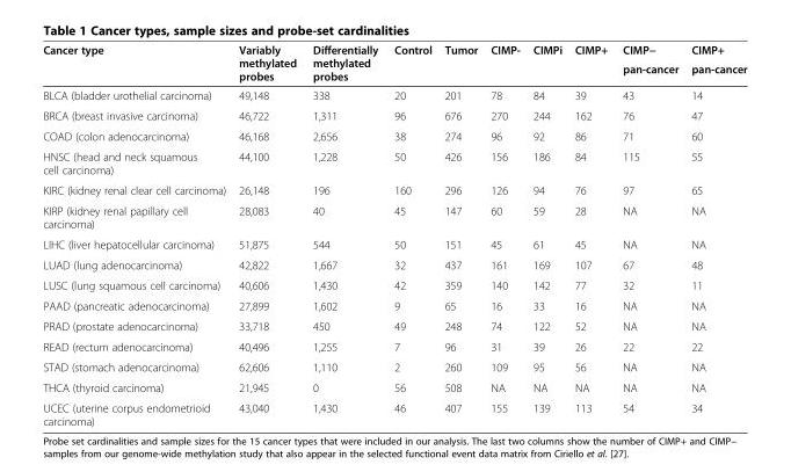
<table><thead><tr><td rowspan="2">Cancer type</td><td rowspan="2">Variably methylated probes</td><td rowspan="2">Differentially methylated probes</td><td rowspan="2">Control</td><td rowspan="2">Tumor</td><td rowspan="2">CIMP-</td><td rowspan="2">CIMPi</td><td rowspan="2">CIMP+</td><td rowspan="2">CIMP− pan-cancer</td><td rowspan="2">CIMP+ pan-cancer</td></tr><tr></tr></thead><tbody><tr><td>BLCA (bladder urothelial carcinoma)</td><td>49,148</td><td>338</td><td>20</td><td>201</td><td>78</td><td>84</td><td>39</td><td>43</td><td>14</td></tr><tr><td>BRCA (breast invasive carcinoma)</td><td>46,722</td><td>1,311</td><td>96</td><td>676</td><td>270</td><td>244</td><td>162</td><td>76</td><td>47</td></tr><tr><td>COAD (colon adenocarcinoma)</td><td>46,168</td><td>2,656</td><td>38</td><td>274</td><td>96</td><td>92</td><td>86</td><td>71</td><td>60</td></tr><tr><td>HNSC (head and neck squamous cell carcinoma)</td><td>44,100</td><td>1,228</td><td>50</td><td>426</td><td>156</td><td>186</td><td>84</td><td>115</td><td>55</td></tr><tr><td>KIRC (kidney renal clear cell carcinoma)</td><td>26,148</td><td>196</td><td>160</td><td>296</td><td>126</td><td>94</td><td>76</td><td>97</td><td>65</td></tr><tr><td>KIRP (kidney renal papillary cell carcinoma)</td><td>28,083</td><td>40</td><td>45</td><td>147</td><td>60</td><td>59</td><td>28</td><td>NA</td><td>NA</td></tr><tr><td>LIHC (liver hepatocellular carcinoma)</td><td>51,875</td><td>544</td><td>50</td><td>151</td><td>45</td><td>61</td><td>45</td><td>NA</td><td>NA</td></tr><tr><td>LUAD (lung adenocarcinoma)</td><td>42,822</td><td>1,667</td><td>32</td><td>437</td><td>161</td><td>169</td><td>107</td><td>67</td><td>48</td></tr><tr><td>LUSC (lung squamous cell carcinoma)</td><td>40,606</td><td>1,430</td><td>42</td><td>359</td><td>140</td><td>142</td><td>77</td><td>32</td><td>11</td></tr><tr><td>PAAD (pancreatic adenocarcinoma)</td><td>27,899</td><td>1,602</td><td>9</td><td>65</td><td>16</td><td>33</td><td>16</td><td>NA</td><td>NA</td></tr><tr><td>PRAD (prostate adenocarcinoma)</td><td>33,718</td><td>450</td><td>49</td><td>248</td><td>74</td><td>122</td><td>52</td><td>NA</td><td>NA</td></tr><tr><td>READ (rectum adenocarcinoma)</td><td>40,496</td><td>1,255</td><td>7</td><td>96</td><td>31</td><td>39</td><td>26</td><td>22</td><td>22</td></tr><tr><td>STAD (stomach adenocarcinoma)</td><td>62,606</td><td>1,110</td><td>2</td><td>260</td><td>109</td><td>95</td><td>56</td><td>NA</td><td>NA</td></tr><tr><td>THCA (thyroid carcinoma)</td><td>21,945</td><td>0</td><td>56</td><td>508</td><td>NA</td><td>NA</td><td>NA</td><td>NA</td><td>NA</td></tr><tr><td>UCEC (uterine corpus endometrioid carcinoma)</td><td>43,040</td><td>1,430</td><td>46</td><td>407</td><td>155</td><td>139</td><td>113</td><td>54</td><td>34</td></tr></tbody></table>